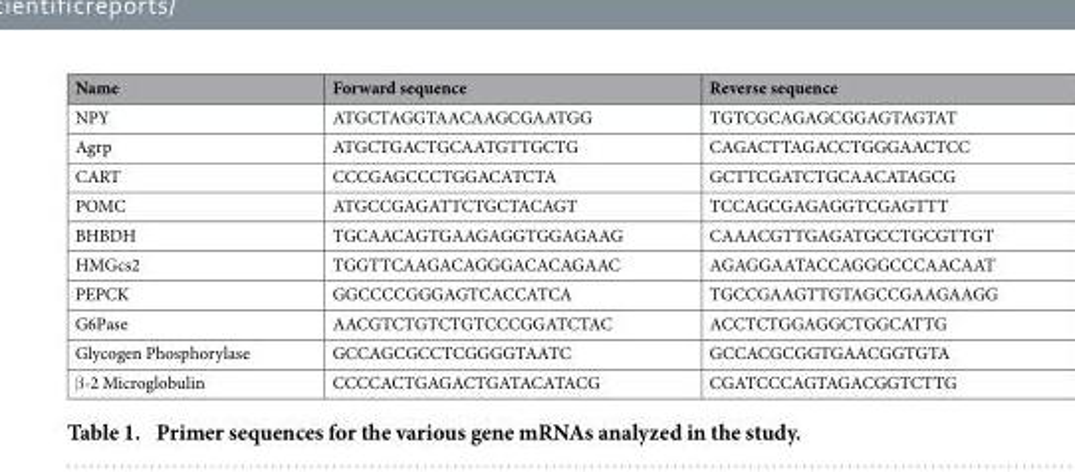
<table><thead><tr><td>Name</td><td>Forward sequence</td><td>Reverse sequence</td></tr></thead><tbody><tr><td>NPY</td><td>ATGCTAGGTAACAAGCGAATGG</td><td>TGTCGCAGAGCGGAGTAGTAT</td></tr><tr><td>Agrp</td><td>ATGCTGACTGCAATGTTGCTG</td><td>CAGACTTAGACCTGGGAACTCC</td></tr><tr><td>CART</td><td>CCCGAGCCCTGGACATCTA</td><td>GCTTCGATCTGCAACATAGCG</td></tr><tr><td>POMC</td><td>ATGCCGAGATTCTGCTACAGT</td><td>TCCAGCGAGAGGTCGAGTTT</td></tr><tr><td>BHBDH</td><td>TGCAACAGTGAAGAGGTGGAGAAG</td><td>CAAACGTTGAGATGCCTGCGTTGT</td></tr><tr><td>HMGcs2</td><td>TGGTTCAAGACAGGGACACAGAAC</td><td>AGAGGAATACCAGGGCCCAACAAT</td></tr><tr><td>PEPCK</td><td>GGCCCCGGGAGTCACCATCA</td><td>TGCCGAAGTTGTAGCCGAAGAAGG</td></tr><tr><td>G6Pase</td><td>AACGTCTGTCTGTCCCGGATCTAC</td><td>ACCTCTGGAGGCTGGCATTG</td></tr><tr><td>Glycogen Phosphorylase</td><td>GCCAGCGCCTCGGGGTAATC</td><td>GCCACGCGGTGAACGGTGTA</td></tr><tr><td>β -2 Microglobulin</td><td>CCCCACTGAGACTGATACATACG</td><td>CGATCCCAGTAGACGGTCTTG</td></tr></tbody></table>